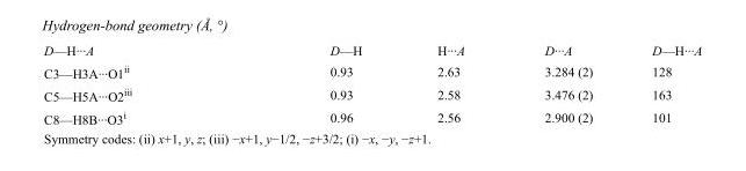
<table><tbody><tr><td>D—H···A</td><td>D—H</td><td>H···A</td><td>D···A</td><td>D—H···A</td></tr><tr><td>C3—H3A···O1<sup>ii</sup></td><td>0.93</td><td>2.63</td><td>3.284 (2)</td><td>128</td></tr><tr><td>C5—H5A···O2<sup>iii</sup></td><td>0.93</td><td>2.58</td><td>3.476 (2)</td><td>163</td></tr><tr><td>C8—H8B···O3<sup>i</sup></td><td>0.96</td><td>2.56</td><td>2.900 (2)</td><td>101</td></tr></tbody></table>